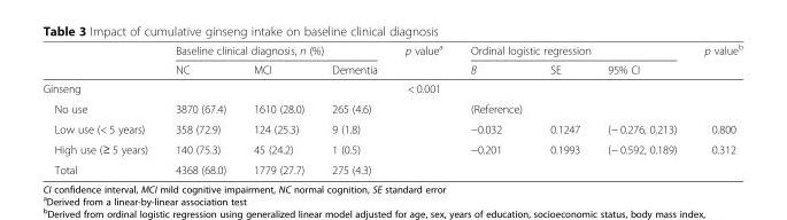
<table><thead><tr><td rowspan="2"></td><td colspan="3">Baseline clinical diagnosis, n (%)</td><td rowspan="2">p value<sup>a</sup></td><td colspan="3">Ordinal logistic regression</td><td rowspan="2">p value<sup>b</sup></td></tr><tr><td>NC</td><td>MCI</td><td>Dementia</td><td>B</td><td>SE</td><td>95% CI</td></tr></thead><tbody><tr><td>Ginseng</td><td></td><td></td><td></td><td>&lt; 0.001</td><td></td><td></td><td></td><td></td></tr><tr><td>No use</td><td>3870 (67.4)</td><td>1610 (28.0)</td><td>265 (4.6)</td><td></td><td>(Reference)</td><td></td><td></td><td></td></tr><tr><td>Low use (&lt; 5 years)</td><td>358 (72.9)</td><td>124 (25.3)</td><td>9 (1.8)</td><td></td><td>−0.032</td><td>0.1247</td><td>(− 0.276, 0.213)</td><td>0.800</td></tr><tr><td>High use (≥ 5 years)</td><td>140 (75.3)</td><td>45 (24.2)</td><td>1 (0.5)</td><td></td><td>−0.201</td><td>0.1993</td><td>(− 0.592, 0.189)</td><td>0.312</td></tr><tr><td>Total</td><td>4368 (68.0)</td><td>1779 (27.7)</td><td>275 (4.3)</td><td></td><td></td><td></td><td></td><td></td></tr></tbody></table>